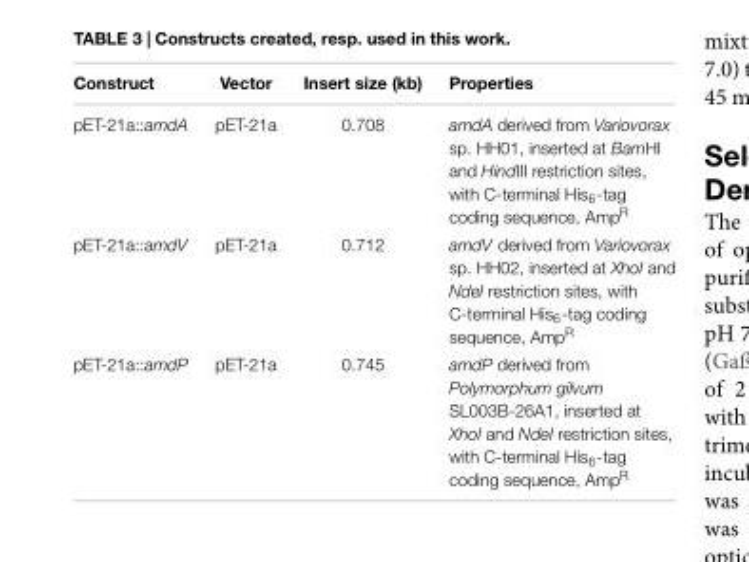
<table><thead><tr><td>Construct</td><td>Vector</td><td>Insert size (kb)</td><td>Properties</td></tr></thead><tbody><tr><td>pET-21a::amdA</td><td>pET-21a</td><td>0.708</td><td>amdA derived from Variovorax sp. HH01, inserted at BamHI and HindIII restriction sites, with C-terminal His<sub>6</sub>-tag coding sequence, Amp<sup>R</sup></td></tr><tr><td>pET-21a::amdV</td><td>pET-21a</td><td>0.712</td><td>amdV derived from Variovorax sp. HH02, inserted at XhoI and NdeI restriction sites, with C-terminal His<sub>6</sub>-tag coding sequence, Amp<sup>R</sup></td></tr><tr><td>pET-21a::amdP</td><td>pET-21a</td><td>0.745</td><td>amdP derived from Polymorphum gilvum SL003B-26A1, inserted at XhoI and NdeI restriction sites, with C-terminal His<sub>6</sub>-tag coding sequence, Amp<sup>R</sup></td></tr></tbody></table>